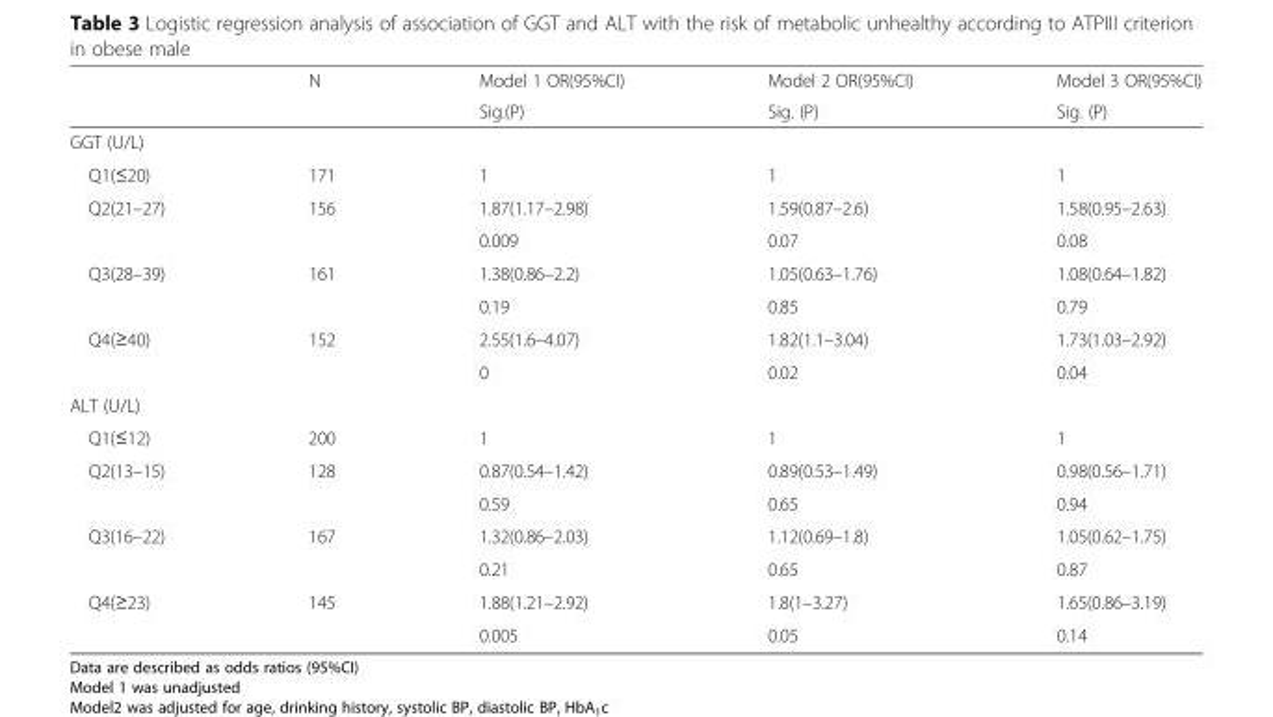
<table><thead><tr><td rowspan="2"></td><td rowspan="2">N</td><td rowspan="2">Model 1 OR(95%CI) Sig.(P)</td><td rowspan="2">Model 2 OR(95%CI) Sig. (P)</td><td rowspan="2">Model 3 OR(95%CI) Sig. (P)</td></tr><tr></tr></thead><tbody><tr><td colspan="5">GGT (U/L)</td></tr><tr><td>Q1(≤20)</td><td>171</td><td>1</td><td>1</td><td>1</td></tr><tr><td rowspan="2">Q2(21–27)</td><td rowspan="2">156</td><td>1.87(1.17–2.98)</td><td>1.59(0.87–2.6)</td><td>1.58(0.95–2.63)</td></tr><tr><td>0.009</td><td>0.07</td><td>0.08</td></tr><tr><td rowspan="2">Q3(28–39)</td><td rowspan="2">161</td><td>1.38(0.86–2.2)</td><td>1.05(0.63–1.76)</td><td>1.08(0.64–1.82)</td></tr><tr><td>0.19</td><td>0.85</td><td>0.79</td></tr><tr><td rowspan="2">Q4(≥40)</td><td rowspan="2">152</td><td>2.55(1.6–4.07)</td><td>1.82(1.1–3.04)</td><td>1.73(1.03–2.92)</td></tr><tr><td>0</td><td>0.02</td><td>0.04</td></tr><tr><td colspan="5">ALT (U/L)</td></tr><tr><td>Q1(≤12)</td><td>200</td><td>1</td><td>1</td><td>1</td></tr><tr><td rowspan="2">Q2(13–15)</td><td rowspan="2">128</td><td>0.87(0.54–1.42)</td><td>0.89(0.53–1.49)</td><td>0.98(0.56–1.71)</td></tr><tr><td>0.59</td><td>0.65</td><td>0.94</td></tr><tr><td rowspan="2">Q3(16–22)</td><td rowspan="2">167</td><td>1.32(0.86–2.03)</td><td>1.12(0.69–1.8)</td><td>1.05(0.62–1.75)</td></tr><tr><td>0.21</td><td>0.65</td><td>0.87</td></tr><tr><td rowspan="2">Q4(≥23)</td><td rowspan="2">145</td><td>1.88(1.21–2.92)</td><td>1.8(1–3.27)</td><td>1.65(0.86–3.19)</td></tr><tr><td>0.005</td><td>0.05</td><td>0.14</td></tr></tbody></table>